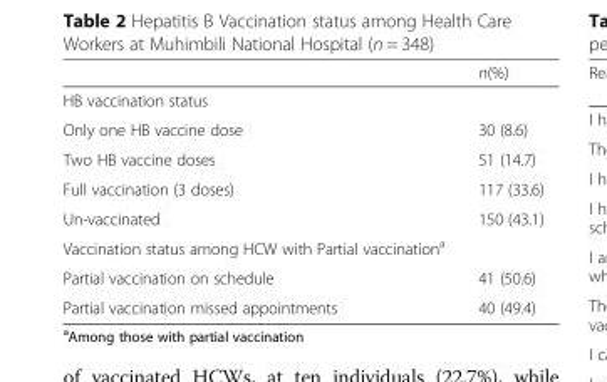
<table><thead><tr><td></td><td>n(%)</td></tr></thead><tbody><tr><td colspan="2">HB vaccination status</td></tr><tr><td>Only one HB vaccine dose</td><td>30 (8.6)</td></tr><tr><td>Two HB vaccine doses</td><td>51 (14.7)</td></tr><tr><td>Full vaccination (3 doses)</td><td>117 (33.6)</td></tr><tr><td>Un-vaccinated</td><td>150 (43.1)</td></tr><tr><td colspan="2">Vaccination status among HCW with Partial vaccination<sup>a</sup></td></tr><tr><td>Partial vaccination on schedule</td><td>41 (50.6)</td></tr><tr><td>Partial vaccination missed appointments</td><td>40 (49.4)</td></tr></tbody></table>